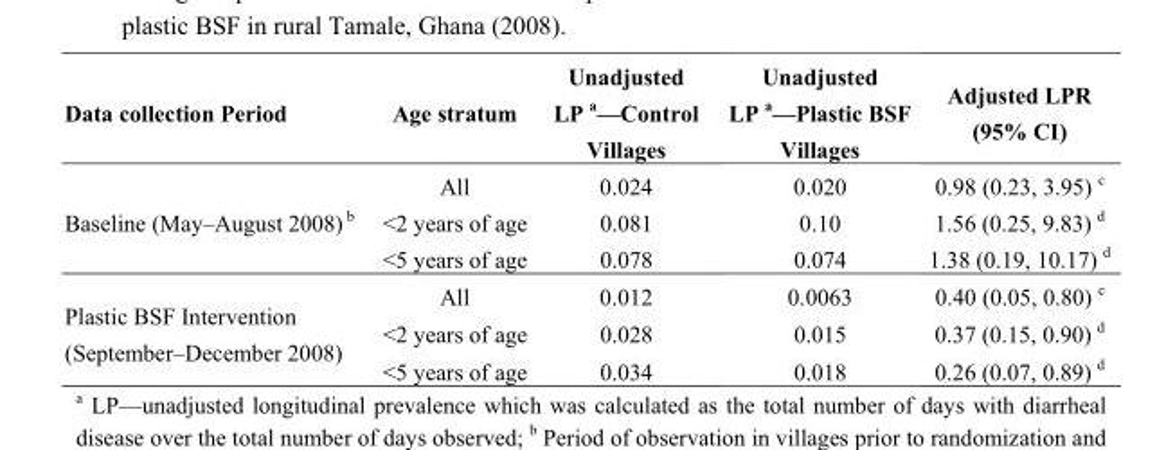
<table><thead><tr><td>Data collection Period</td><td>Age stratum</td><td>Unadjusted LP <sup>a</sup>—Control Villages</td><td>Unadjusted LP <sup>a</sup>—Plastic BSF Villages</td><td>Adjusted LPR (95% CI)</td></tr></thead><tbody><tr><td rowspan="3">Baseline (May–August 2008) <sup>b</sup></td><td>All</td><td>0.024</td><td>0.020</td><td>0.98 (0.23, 3.95) <sup>c</sup></td></tr><tr><td>&lt;2 years of age</td><td>0.081</td><td>0.10</td><td>1.56 (0.25, 9.83) <sup>d</sup></td></tr><tr><td>&lt;5 years of age</td><td>0.078</td><td>0.074</td><td>1.38 (0.19, 10.17) <sup>d</sup></td></tr><tr><td rowspan="3">Plastic BSF Intervention (September–December 2008)</td><td>All</td><td>0.012</td><td>0.0063</td><td>0.40 (0.05, 0.80) <sup>c</sup></td></tr><tr><td>&lt;2 years of age</td><td>0.028</td><td>0.015</td><td>0.37 (0.15, 0.90) <sup>d</sup></td></tr><tr><td>&lt;5 years of age</td><td>0.034</td><td>0.018</td><td>0.26 (0.07, 0.89) <sup>d</sup></td></tr></tbody></table>